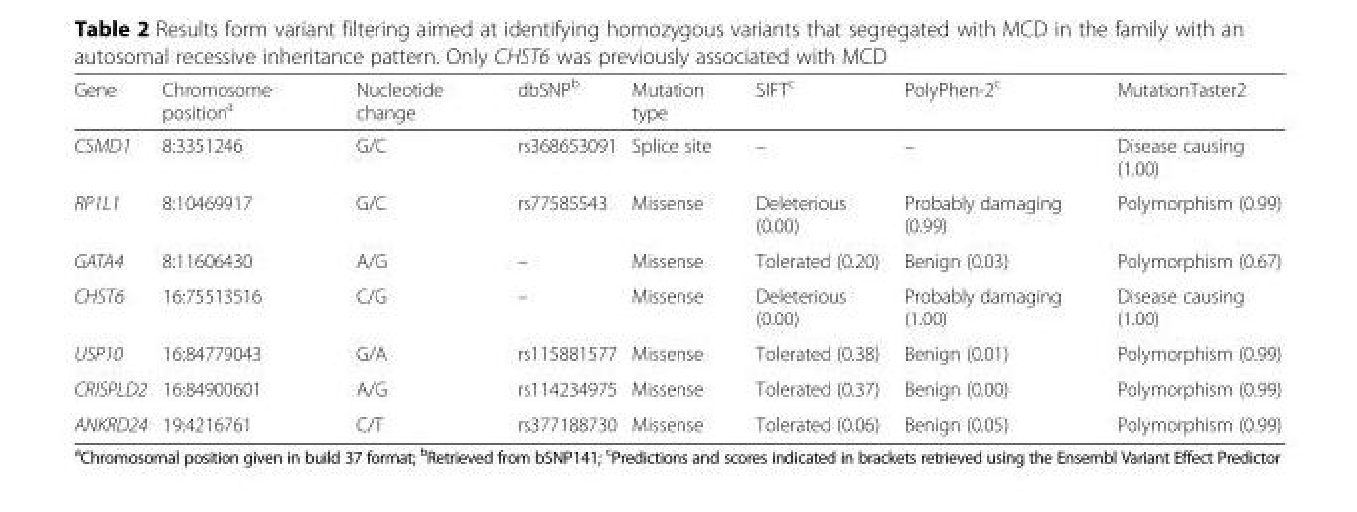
<table><thead><tr><td>Gene</td><td>Chromosome position<sup>a</sup></td><td>Nucleotide change</td><td>dbSNP<sup>b</sup></td><td>Mutation type</td><td>SIFT<sup>c</sup></td><td>PolyPhen-2<sup>c</sup></td><td>MutationTaster2</td></tr></thead><tbody><tr><td>CSMD1</td><td>8:3351246</td><td>G/C</td><td>rs368653091</td><td>Splice site</td><td>–</td><td>–</td><td>Disease causing (1.00)</td></tr><tr><td>RP1L1</td><td>8:10469917</td><td>G/C</td><td>rs77585543</td><td>Missense</td><td>Deleterious (0.00)</td><td>Probably damaging (0.99)</td><td>Polymorphism (0.99)</td></tr><tr><td>GATA4</td><td>8:11606430</td><td>A/G</td><td>–</td><td>Missense</td><td>Tolerated (0.20)</td><td>Benign (0.03)</td><td>Polymorphism (0.67)</td></tr><tr><td>CHST6</td><td>16:75513516</td><td>C/G</td><td>–</td><td>Missense</td><td>Deleterious (0.00)</td><td>Probably damaging (1.00)</td><td>Disease causing (1.00)</td></tr><tr><td>USP10</td><td>16:84779043</td><td>G/A</td><td>rs115881577</td><td>Missense</td><td>Tolerated (0.38)</td><td>Benign (0.01)</td><td>Polymorphism (0.99)</td></tr><tr><td>CRISPLD2</td><td>16:84900601</td><td>A/G</td><td>rs114234975</td><td>Missense</td><td>Tolerated (0.37)</td><td>Benign (0.00)</td><td>Polymorphism (0.99)</td></tr><tr><td>ANKRD24</td><td>19:4216761</td><td>C/T</td><td>rs377188730</td><td>Missense</td><td>Tolerated (0.06)</td><td>Benign (0.05)</td><td>Polymorphism (0.99)</td></tr></tbody></table>